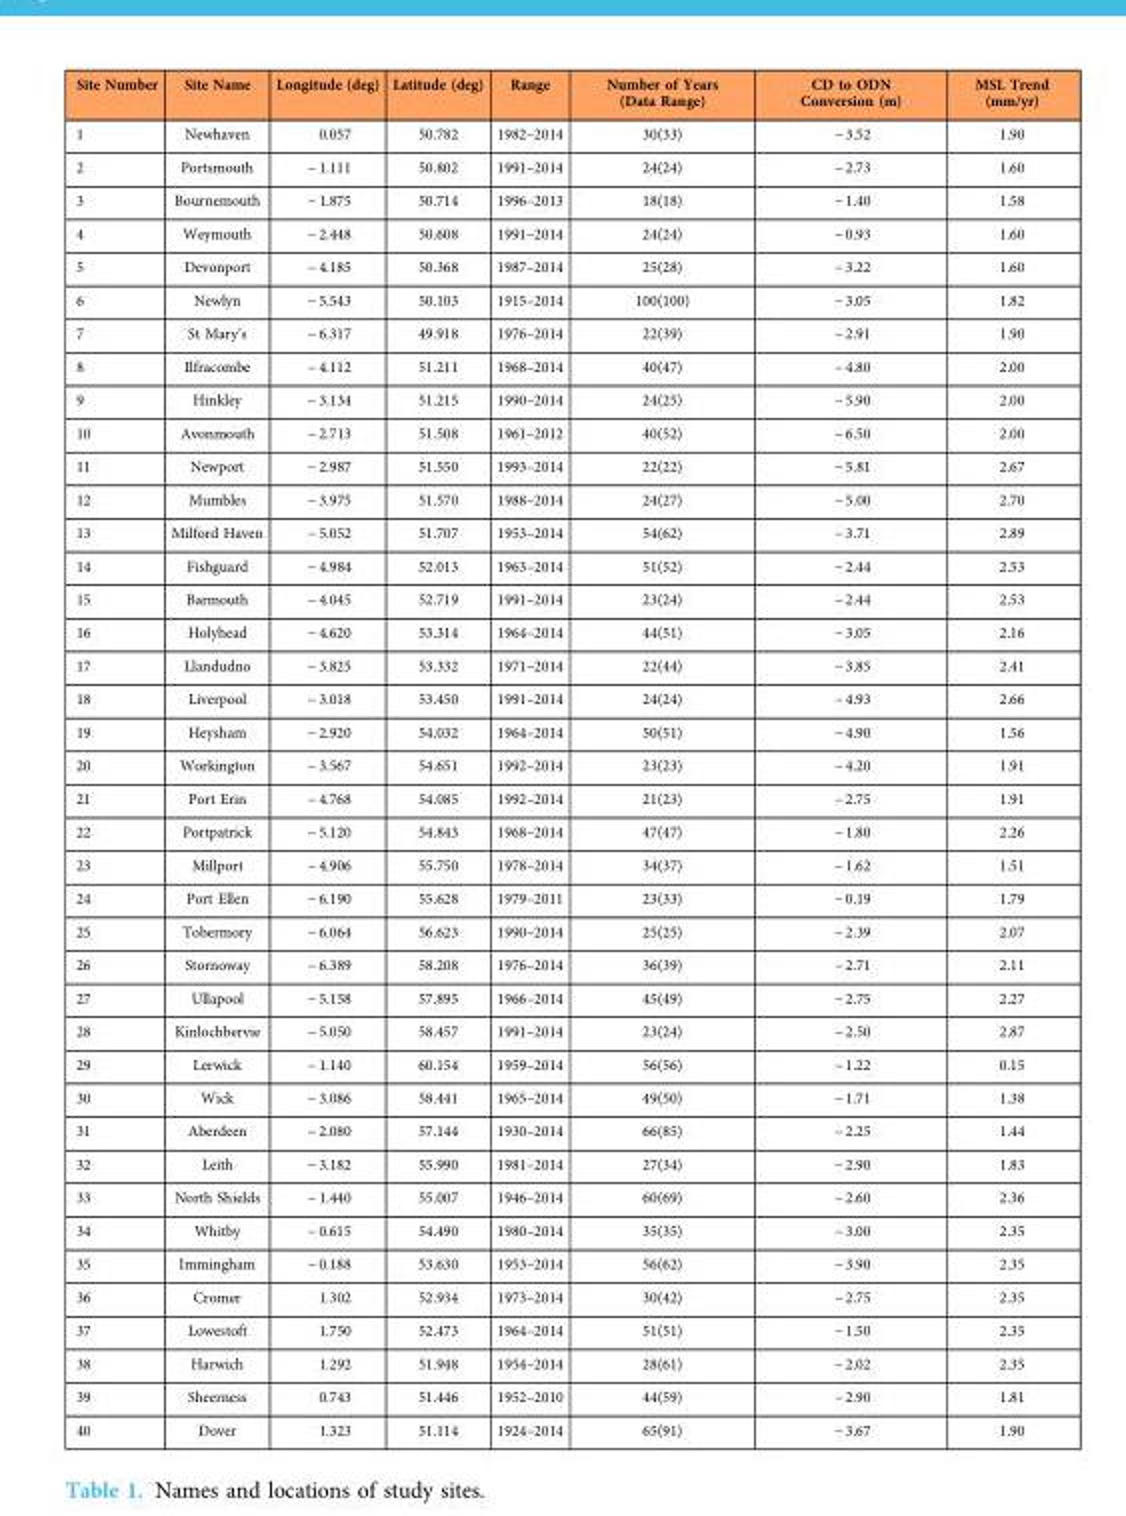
<table><thead><tr><td>Site Number</td><td>Site Name</td><td>Longitude (deg)</td><td>Latitude (deg)</td><td>Range</td><td>Number of Years (Data Range)</td><td>CD to ODN Conversion (m)</td><td>MSL Trend (mm/yr)</td></tr></thead><tbody><tr><td>1</td><td>Newhaven</td><td>0.057</td><td>50.782</td><td>1982–2014</td><td>30(33)</td><td>− 3.52</td><td>1.90</td></tr><tr><td>2</td><td>Portsmouth</td><td>− 1.111</td><td>50.802</td><td>1991–2014</td><td>24(24)</td><td>− 2.73</td><td>1.60</td></tr><tr><td>3</td><td>Bournemouth</td><td>− 1.875</td><td>50.714</td><td>1996–2013</td><td>18(18)</td><td>− 1.40</td><td>1.58</td></tr><tr><td>4</td><td>Weymouth</td><td>− 2.448</td><td>50.608</td><td>1991–2014</td><td>24(24)</td><td>− 0.93</td><td>1.60</td></tr><tr><td>5</td><td>Devonport</td><td>− 4.185</td><td>50.368</td><td>1987–2014</td><td>25(28)</td><td>− 3.22</td><td>1.60</td></tr><tr><td>6</td><td>Newlyn</td><td>− 5.543</td><td>50.103</td><td>1915–2014</td><td>100(100)</td><td>− 3.05</td><td>1.82</td></tr><tr><td>7</td><td>St Mary’s</td><td>− 6.317</td><td>49.918</td><td>1976–2014</td><td>22(39)</td><td>− 2.91</td><td>1.90</td></tr><tr><td>8</td><td>Ilfracombe</td><td>− 4.112</td><td>51.211</td><td>1968–2014</td><td>40(47)</td><td>− 4.80</td><td>2.00</td></tr><tr><td>9</td><td>Hinkley</td><td>− 3.134</td><td>51.215</td><td>1990–2014</td><td>24(25)</td><td>− 5.90</td><td>2.00</td></tr><tr><td>10</td><td>Avonmouth</td><td>− 2.713</td><td>51.508</td><td>1961–2012</td><td>40(52)</td><td>− 6.50</td><td>2.00</td></tr><tr><td>11</td><td>Newport</td><td>− 2.987</td><td>51.550</td><td>1993–2014</td><td>22(22)</td><td>− 5.81</td><td>2.67</td></tr><tr><td>12</td><td>Mumbles</td><td>− 3.975</td><td>51.570</td><td>1988–2014</td><td>24(27)</td><td>− 5.00</td><td>2.70</td></tr><tr><td>13</td><td>Milford Haven</td><td>− 5.052</td><td>51.707</td><td>1953–2014</td><td>54(62)</td><td>− 3.71</td><td>2.89</td></tr><tr><td>14</td><td>Fishguard</td><td>− 4.984</td><td>52.013</td><td>1963–2014</td><td>51(52)</td><td>− 2.44</td><td>2.53</td></tr><tr><td>15</td><td>Barmouth</td><td>− 4.045</td><td>52.719</td><td>1991–2014</td><td>23(24)</td><td>− 2.44</td><td>2.53</td></tr><tr><td>16</td><td>Holyhead</td><td>− 4.620</td><td>53.314</td><td>1964–2014</td><td>44(51)</td><td>− 3.05</td><td>2.16</td></tr><tr><td>17</td><td>Llandudno</td><td>− 3.825</td><td>53.332</td><td>1971–2014</td><td>22(44)</td><td>− 3.85</td><td>2.41</td></tr><tr><td>18</td><td>Liverpool</td><td>− 3.018</td><td>53.450</td><td>1991–2014</td><td>24(24)</td><td>− 4.93</td><td>2.66</td></tr><tr><td>19</td><td>Heysham</td><td>− 2.920</td><td>54.032</td><td>1964–2014</td><td>50(51)</td><td>− 4.90</td><td>1.56</td></tr><tr><td>20</td><td>Workington</td><td>− 3.567</td><td>54.651</td><td>1992–2014</td><td>23(23)</td><td>− 4.20</td><td>1.91</td></tr><tr><td>21</td><td>Port Erin</td><td>− 4.768</td><td>54.085</td><td>1992–2014</td><td>21(23)</td><td>− 2.75</td><td>1.91</td></tr><tr><td>22</td><td>Portpatrick</td><td>− 5.120</td><td>54.843</td><td>1968–2014</td><td>47(47)</td><td>− 1.80</td><td>2.26</td></tr><tr><td>23</td><td>Millport</td><td>− 4.906</td><td>55.750</td><td>1978–2014</td><td>34(37)</td><td>− 1.62</td><td>1.51</td></tr><tr><td>24</td><td>Port Ellen</td><td>− 6.190</td><td>55.628</td><td>1979–2011</td><td>23(33)</td><td>− 0.19</td><td>1.79</td></tr><tr><td>25</td><td>Tobermory</td><td>− 6.064</td><td>56.623</td><td>1990–2014</td><td>25(25)</td><td>− 2.39</td><td>2.07</td></tr><tr><td>26</td><td>Stornoway</td><td>− 6.389</td><td>58.208</td><td>1976–2014</td><td>36(39)</td><td>− 2.71</td><td>2.11</td></tr><tr><td>27</td><td>Ullapool</td><td>− 5.158</td><td>57.895</td><td>1966–2014</td><td>45(49)</td><td>− 2.75</td><td>2.27</td></tr><tr><td>28</td><td>Kinlochbervie</td><td>− 5.050</td><td>58.457</td><td>1991–2014</td><td>23(24)</td><td>− 2.50</td><td>2.87</td></tr><tr><td>29</td><td>Lerwick</td><td>− 1.140</td><td>60.154</td><td>1959–2014</td><td>56(56)</td><td>− 1.22</td><td>0.15</td></tr><tr><td>30</td><td>Wick</td><td>− 3.086</td><td>58.441</td><td>1965–2014</td><td>49(50)</td><td>− 1.71</td><td>1.38</td></tr><tr><td>31</td><td>Aberdeen</td><td>− 2.080</td><td>57.144</td><td>1930–2014</td><td>66(85)</td><td>− 2.25</td><td>1.44</td></tr><tr><td>32</td><td>Leith</td><td>− 3.182</td><td>55.990</td><td>1981–2014</td><td>27(34)</td><td>− 2.90</td><td>1.83</td></tr><tr><td>33</td><td>North Shields</td><td>− 1.440</td><td>55.007</td><td>1946–2014</td><td>60(69)</td><td>− 2.60</td><td>2.36</td></tr><tr><td>34</td><td>Whitby</td><td>− 0.615</td><td>54.490</td><td>1980–2014</td><td>35(35)</td><td>− 3.00</td><td>2.35</td></tr><tr><td>35</td><td>Immingham</td><td>− 0.188</td><td>53.630</td><td>1953–2014</td><td>56(62)</td><td>− 3.90</td><td>2.35</td></tr><tr><td>36</td><td>Cromer</td><td>1.302</td><td>52.934</td><td>1973–2014</td><td>30(42)</td><td>− 2.75</td><td>2.35</td></tr><tr><td>37</td><td>Lowestoft</td><td>1.750</td><td>52.473</td><td>1964–2014</td><td>51(51)</td><td>− 1.50</td><td>2.35</td></tr><tr><td>38</td><td>Harwich</td><td>1.292</td><td>51.948</td><td>1954–2014</td><td>28(61)</td><td>− 2.02</td><td>2.35</td></tr><tr><td>39</td><td>Sheerness</td><td>0.743</td><td>51.446</td><td>1952–2010</td><td>44(59)</td><td>− 2.90</td><td>1.81</td></tr><tr><td>40</td><td>Dover</td><td>1.323</td><td>51.114</td><td>1924–2014</td><td>65(91)</td><td>− 3.67</td><td>1.90</td></tr></tbody></table>